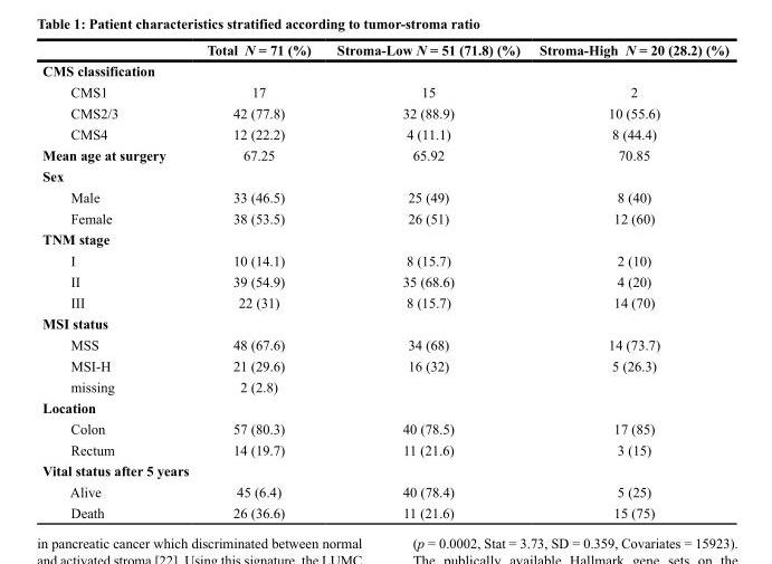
<table><thead><tr><td></td><td>Total N = 71 (%)</td><td>Stroma-Low N = 51 (71.8) (%)</td><td>Stroma-High N = 20 (28.2) (%)</td></tr></thead><tbody><tr><td colspan="4">CMS classification</td></tr><tr><td>CMS1</td><td>17</td><td>15</td><td>2</td></tr><tr><td>CMS2/3</td><td>42 (77.8)</td><td>32 (88.9)</td><td>10 (55.6)</td></tr><tr><td>CMS4</td><td>12 (22.2)</td><td>4 (11.1)</td><td>8 (44.4)</td></tr><tr><td>Mean age at surgery</td><td>67.25</td><td>65.92</td><td>70.85</td></tr><tr><td colspan="4">Sex</td></tr><tr><td>Male</td><td>33 (46.5)</td><td>25 (49)</td><td>8 (40)</td></tr><tr><td>Female</td><td>38 (53.5)</td><td>26 (51)</td><td>12 (60)</td></tr><tr><td colspan="4">TNM stage</td></tr><tr><td>I</td><td>10 (14.1)</td><td>8 (15.7)</td><td>2 (10)</td></tr><tr><td>II</td><td>39 (54.9)</td><td>35 (68.6)</td><td>4 (20)</td></tr><tr><td>III</td><td>22 (31)</td><td>8 (15.7)</td><td>14 (70)</td></tr><tr><td colspan="4">MSI status</td></tr><tr><td>MSS</td><td>48 (67.6)</td><td>34 (68)</td><td>14 (73.7)</td></tr><tr><td>MSI-H</td><td>21 (29.6)</td><td>16 (32)</td><td>5 (26.3)</td></tr><tr><td>missing</td><td>2 (2.8)</td><td></td><td></td></tr><tr><td colspan="4">Location</td></tr><tr><td>Colon</td><td>57 (80.3)</td><td>40 (78.5)</td><td>17 (85)</td></tr><tr><td>Rectum</td><td>14 (19.7)</td><td>11 (21.6)</td><td>3 (15)</td></tr><tr><td colspan="4">Vital status after 5 years</td></tr><tr><td>Alive</td><td>45 (6.4)</td><td>40 (78.4)</td><td>5 (25)</td></tr><tr><td>Death</td><td>26 (36.6)</td><td>11 (21.6)</td><td>15 (75)</td></tr></tbody></table>